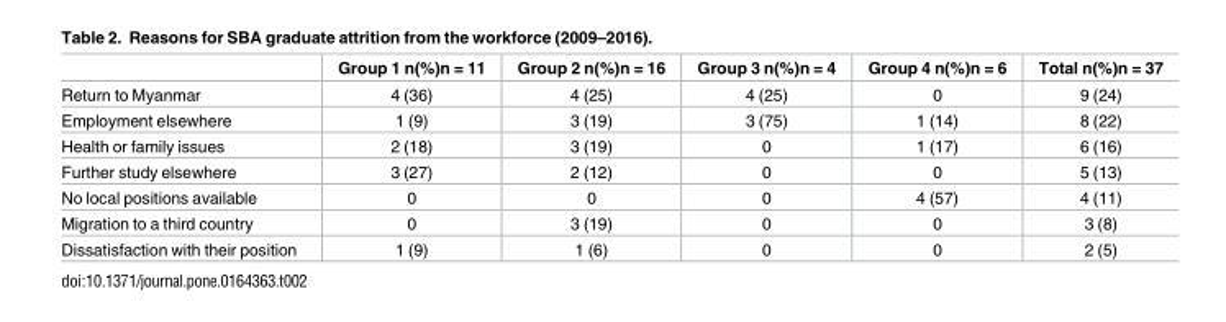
<table><thead><tr><td></td><td>Group 1 n(%)n = 11</td><td>Group 2 n(%)n = 16</td><td>Group 3 n(%)n = 4</td><td>Group 4 n(%)n = 6</td><td>Total n(%)n = 37</td></tr></thead><tbody><tr><td>Return to Myanmar</td><td>4 (36)</td><td>4 (25)</td><td>4 (25)</td><td>0</td><td>9 (24)</td></tr><tr><td>Employment elsewhere</td><td>1 (9)</td><td>3 (19)</td><td>3 (75)</td><td>1 (14)</td><td>8 (22)</td></tr><tr><td>Health or family issues</td><td>2 (18)</td><td>3 (19)</td><td>0</td><td>1 (17)</td><td>6 (16)</td></tr><tr><td>Further study elsewhere</td><td>3 (27)</td><td>2 (12)</td><td>0</td><td>0</td><td>5 (13)</td></tr><tr><td>No local positions available</td><td>0</td><td>0</td><td>0</td><td>4 (57)</td><td>4 (11)</td></tr><tr><td>Migration to a third country</td><td>0</td><td>3 (19)</td><td>0</td><td>0</td><td>3 (8)</td></tr><tr><td>Dissatisfaction with their position</td><td>1 (9)</td><td>1 (6)</td><td>0</td><td>0</td><td>2 (5)</td></tr></tbody></table>